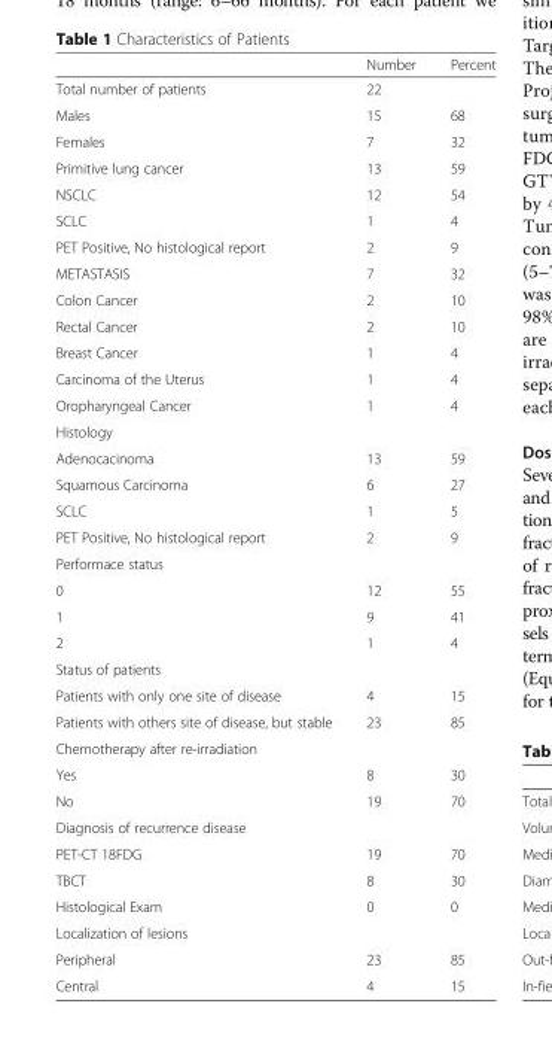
<table><thead><tr><td></td><td>Number</td><td>Percent</td></tr></thead><tbody><tr><td>Total number of patients</td><td>22</td><td></td></tr><tr><td>Males</td><td>15</td><td>68</td></tr><tr><td>Females</td><td>7</td><td>32</td></tr><tr><td>Primitive lung cancer</td><td>13</td><td>59</td></tr><tr><td>NSCLC</td><td>12</td><td>54</td></tr><tr><td>SCLC</td><td>1</td><td>4</td></tr><tr><td>PET Positive, No histological report</td><td>2</td><td>9</td></tr><tr><td>METASTASIS</td><td>7</td><td>32</td></tr><tr><td>Colon Cancer</td><td>2</td><td>10</td></tr><tr><td>Rectal Cancer</td><td>2</td><td>10</td></tr><tr><td>Breast Cancer</td><td>1</td><td>4</td></tr><tr><td>Carcinoma of the Uterus</td><td>1</td><td>4</td></tr><tr><td>Oropharyngeal Cancer</td><td>1</td><td>4</td></tr><tr><td colspan="3">Histology</td></tr><tr><td>Adenocacinoma</td><td>13</td><td>59</td></tr><tr><td>Squamous Carcinoma</td><td>6</td><td>27</td></tr><tr><td>SCLC</td><td>1</td><td>5</td></tr><tr><td>PET Positive, No histological report</td><td>2</td><td>9</td></tr><tr><td colspan="3">Performace status</td></tr><tr><td>0</td><td>12</td><td>55</td></tr><tr><td>1</td><td>9</td><td>41</td></tr><tr><td>2</td><td>1</td><td>4</td></tr><tr><td colspan="3">Status of patients</td></tr><tr><td>Patients with only one site of disease</td><td>4</td><td>15</td></tr><tr><td>Patients with others site of disease, but stable</td><td>23</td><td>85</td></tr><tr><td colspan="3">Chemotherapy after re-irradiation</td></tr><tr><td>Yes</td><td>8</td><td>30</td></tr><tr><td>No</td><td>19</td><td>70</td></tr><tr><td colspan="3">Diagnosis of recurrence disease</td></tr><tr><td>PET-CT 18FDG</td><td>19</td><td>70</td></tr><tr><td>TBCT</td><td>8</td><td>30</td></tr><tr><td>Histological Exam</td><td>0</td><td>0</td></tr><tr><td colspan="3">Localization of lesions</td></tr><tr><td>Peripheral</td><td>23</td><td>85</td></tr><tr><td>Central</td><td>4</td><td>15</td></tr></tbody></table>